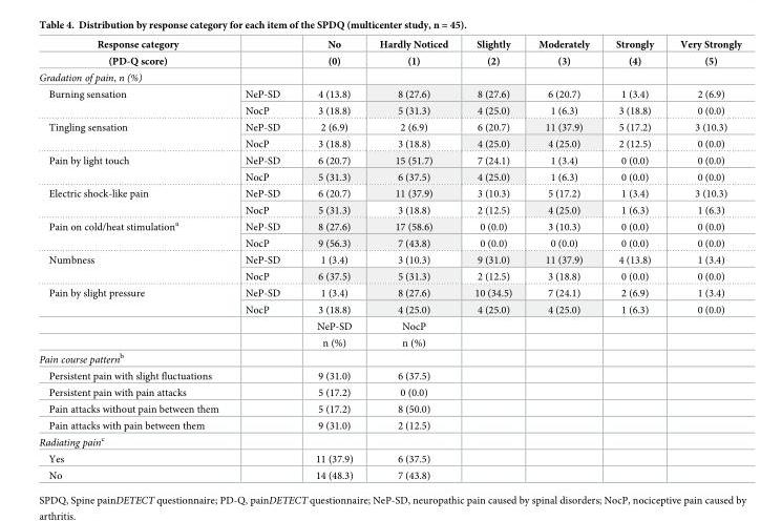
<table><thead><tr><td rowspan="2">Response category (PD-Q score)</td><td rowspan="2"></td><td rowspan="2">No (0)</td><td rowspan="2">Hardly Noticed (1)</td><td rowspan="2">Slightly (2)</td><td rowspan="2">Moderately (3)</td><td rowspan="2">Strongly (4)</td><td rowspan="2">Very Strongly (5)</td></tr><tr></tr></thead><tbody><tr><td colspan="8">Gradation of pain, n (%)</td></tr><tr><td rowspan="2">Burning sensation</td><td>NeP-SD</td><td>4 (13.8)</td><td>8 (27.6)</td><td>8 (27.6)</td><td>6 (20.7)</td><td>1 (3.4)</td><td>2 (6.9)</td></tr><tr><td>NocP</td><td>3 (18.8)</td><td>5 (31.3)</td><td>4 (25.0)</td><td>1 (6.3)</td><td>3 (18.8)</td><td>0 (0.0)</td></tr><tr><td rowspan="2">Tingling sensation</td><td>NeP-SD</td><td>2 (6.9)</td><td>2 (6.9)</td><td>6 (20.7)</td><td>11 (37.9)</td><td>5 (17.2)</td><td>3 (10.3)</td></tr><tr><td>NocP</td><td>3 (18.8)</td><td>3 (18.8)</td><td>4 (25.0)</td><td>4 (25.0)</td><td>2 (12.5)</td><td>0 (0.0)</td></tr><tr><td rowspan="2">Pain by light touch</td><td>NeP-SD</td><td>6 (20.7)</td><td>15 (51.7)</td><td>7 (24.1)</td><td>1 (3.4)</td><td>0 (0.0)</td><td>0 (0.0)</td></tr><tr><td>NocP</td><td>5 (31.3)</td><td>6 (37.5)</td><td>4 (25.0)</td><td>1 (6.3)</td><td>0 (0.0)</td><td>0 (0.0)</td></tr><tr><td rowspan="2">Electric shock-like pain</td><td>NeP-SD</td><td>6 (20.7)</td><td>11 (37.9)</td><td>3 (10.3)</td><td>5 (17.2)</td><td>1 (3.4)</td><td>3 (10.3)</td></tr><tr><td>NocP</td><td>5 (31.3)</td><td>3 (18.8)</td><td>2 (12.5)</td><td>4 (25.0)</td><td>1 (6.3)</td><td>1 (6.3)</td></tr><tr><td rowspan="2">Pain on cold/heat stimulation<sup>a</sup></td><td>NeP-SD</td><td>8 (27.6)</td><td>17 (58.6)</td><td>0 (0.0)</td><td>3 (10.3)</td><td>0 (0.0)</td><td>0 (0.0)</td></tr><tr><td>NocP</td><td>9 (56.3)</td><td>7 (43.8)</td><td>0 (0.0)</td><td>0 (0.0)</td><td>0 (0.0)</td><td>0 (0.0)</td></tr><tr><td rowspan="2">Numbness</td><td>NeP-SD</td><td>1 (3.4)</td><td>3 (10.3)</td><td>9 (31.0)</td><td>11 (37.9)</td><td>4 (13.8)</td><td>1 (3.4)</td></tr><tr><td>NocP</td><td>6 (37.5)</td><td>5 (31.3)</td><td>2 (12.5)</td><td>3 (18.8)</td><td>0 (0.0)</td><td>0 (0.0)</td></tr><tr><td rowspan="4">Pain by slight pressure</td><td>NeP-SD</td><td>1 (3.4)</td><td>8 (27.6)</td><td>10 (34.5)</td><td>7 (24.1)</td><td>2 (6.9)</td><td>1 (3.4)</td></tr><tr><td>NocP</td><td>3 (18.8)</td><td>4 (25.0)</td><td>4 (25.0)</td><td>4 (25.0)</td><td>1 (6.3)</td><td>0 (0.0)</td></tr><tr><td></td><td>NeP-SD</td><td>NocP</td><td></td><td></td><td></td><td></td></tr><tr><td></td><td>n (%)</td><td>n (%)</td><td></td><td></td><td></td><td></td></tr><tr><td colspan="8">Pain course pattern<sup>b</sup></td></tr><tr><td>Persistent pain with slight fluctuations</td><td></td><td>9 (31.0)</td><td>6 (37.5)</td><td></td><td></td><td></td><td></td></tr><tr><td>Persistent pain with pain attacks</td><td></td><td>5 (17.2)</td><td>0 (0.0)</td><td></td><td></td><td></td><td></td></tr><tr><td>Pain attacks without pain between them</td><td></td><td>5 (17.2)</td><td>8 (50.0)</td><td></td><td></td><td></td><td></td></tr><tr><td>Pain attacks with pain between them</td><td></td><td>9 (31.0)</td><td>2 (12.5)</td><td></td><td></td><td></td><td></td></tr><tr><td colspan="8">Radiating pain<sup>c</sup></td></tr><tr><td>Yes</td><td></td><td>11 (37.9)</td><td>6 (37.5)</td><td></td><td></td><td></td><td></td></tr><tr><td>No</td><td></td><td>14 (48.3)</td><td>7 (43.8)</td><td></td><td></td><td></td><td></td></tr></tbody></table>